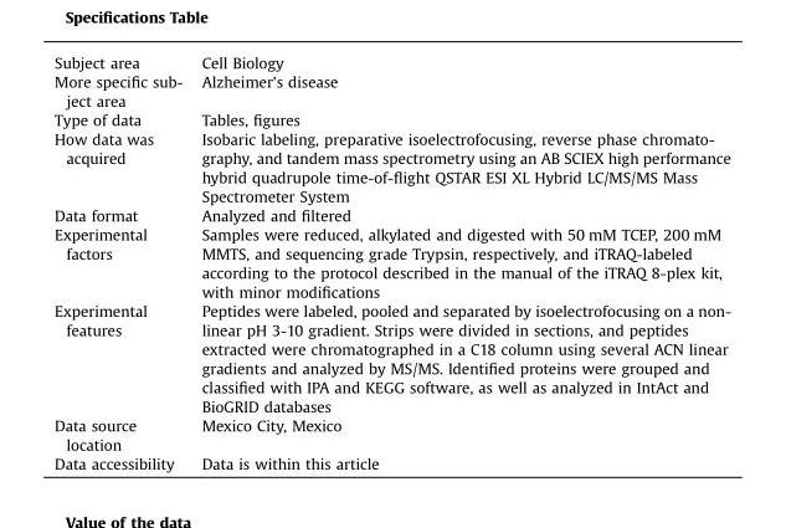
<table><tbody><tr><td>Subject area</td><td>Cell Biology</td></tr><tr><td>More specific sub- ject area</td><td>Alzheimer&#x27;s disease</td></tr><tr><td>Type of data</td><td>Tables, figures</td></tr><tr><td>How data was acquired</td><td>Isobaric labeling, preparative isoelectrofocusing, reverse phase chromato- graphy, and tandem mass spectrometry using an AB SCIEX high performance hybrid quadrupole time-of-flight QSTAR ESI XL Hybrid LC/MS/MS Mass Spectrometer System</td></tr><tr><td>Data format</td><td>Analyzed and filtered</td></tr><tr><td>Experimental factors</td><td>Samples were reduced, alkylated and digested with 50 mM TCEP, 200 mM MMTS, and sequencing grade Trypsin, respectively, and iTRAQ-labeled according to the protocol described in the manual of the iTRAQ 8-plex kit, with minor modifications</td></tr><tr><td>Experimental features</td><td>Peptides were labeled, pooled and separated by isoelectrofocusing on a non- linear pH 3-10 gradient. Strips were divided in sections, and peptides extracted were chromatographed in a C18 column using several ACN linear gradients and analyzed by MS/MS. Identified proteins were grouped and classified with IPA and KEGG software, as well as analyzed in IntAct and BioGRID databases</td></tr><tr><td>Data source location</td><td>Mexico City, Mexico</td></tr><tr><td>Data accessibility</td><td>Data is within this article</td></tr></tbody></table>